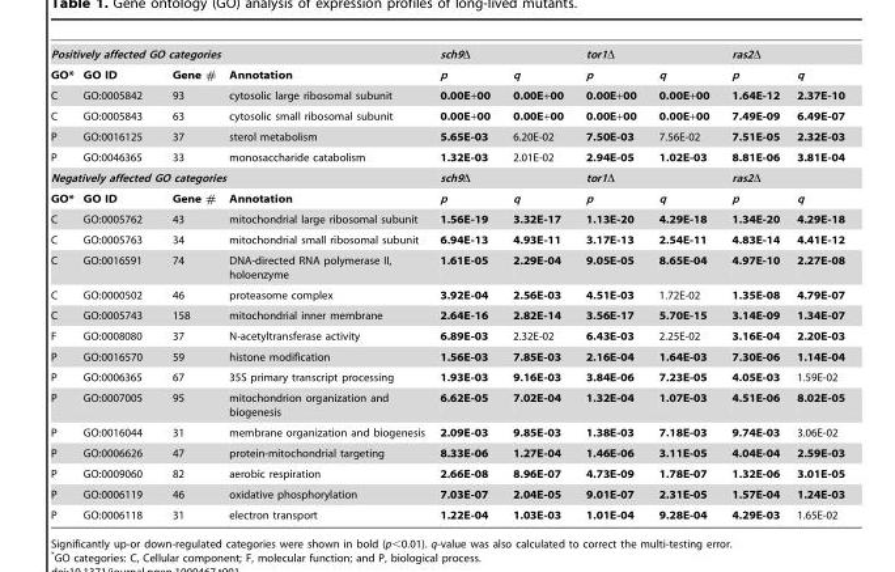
<table><tbody><tr><td colspan="4">Positively affected GO categories</td><td colspan="2">sch9Δ</td><td colspan="2">tor1Δ</td><td colspan="2">ras2Δ</td></tr><tr><td>GO*</td><td>GO ID</td><td>Gene #</td><td>Annotation</td><td>p</td><td>q</td><td>p</td><td>q</td><td>p</td><td>q</td></tr><tr><td>C</td><td>GO:0005842</td><td>93</td><td>cytosolic large ribosomal subunit</td><td>0.00E+00</td><td>0.00E+00</td><td>0.00E+00</td><td>0.00E+00</td><td>1.64E-12</td><td>2.37E-10</td></tr><tr><td>C</td><td>GO:0005843</td><td>63</td><td>cytosolic small ribosomal subunit</td><td>0.00E+00</td><td>0.00E+00</td><td>0.00E+00</td><td>0.00E+00</td><td>7.49E-09</td><td>6.49E-07</td></tr><tr><td>P</td><td>GO:0016125</td><td>37</td><td>sterol metabolism</td><td>5.65E-03</td><td>6.20E-02</td><td>7.50E-03</td><td>7.56E-02</td><td>7.51E-05</td><td>2.32E-03</td></tr><tr><td>P</td><td>GO:0046365</td><td>33</td><td>monosaccharide catabolism</td><td>1.32E-03</td><td>2.01E-02</td><td>2.94E-05</td><td>1.02E-03</td><td>8.81E-06</td><td>3.81E-04</td></tr><tr><td colspan="4">Negatively affected GO categories</td><td colspan="2">sch9Δ</td><td colspan="2">tor1Δ</td><td colspan="2">ras2Δ</td></tr><tr><td>GO*</td><td>GO ID</td><td>Gene #</td><td>Annotation</td><td>p</td><td>q</td><td>p</td><td>q</td><td>p</td><td>q</td></tr><tr><td>C</td><td>GO:0005762</td><td>43</td><td>mitochondrial large ribosomal subunit</td><td>1.56E-19</td><td>3.32E-17</td><td>1.13E-20</td><td>4.29E-18</td><td>1.34E-20</td><td>4.29E-18</td></tr><tr><td>C</td><td>GO:0005763</td><td>34</td><td>mitochondrial small ribosomal subunit</td><td>6.94E-13</td><td>4.93E-11</td><td>3.17E-13</td><td>2.54E-11</td><td>4.83E-14</td><td>4.41E-12</td></tr><tr><td>C</td><td>GO:0016591</td><td>74</td><td>DNA-directed RNA polymerase II, holoenzyme</td><td>1.61E-05</td><td>2.29E-04</td><td>9.05E-05</td><td>8.65E-04</td><td>4.97E-10</td><td>2.27E-08</td></tr><tr><td>C</td><td>GO:0000502</td><td>46</td><td>proteasome complex</td><td>3.92E-04</td><td>2.56E-03</td><td>4.51E-03</td><td>1.72E-02</td><td>1.35E-08</td><td>4.79E-07</td></tr><tr><td>C</td><td>GO:0005743</td><td>158</td><td>mitochondrial inner membrane</td><td>2.64E-16</td><td>2.82E-14</td><td>3.56E-17</td><td>5.70E-15</td><td>3.14E-09</td><td>1.34E-07</td></tr><tr><td>F</td><td>GO:0008080</td><td>37</td><td>N-acetyltransferase activity</td><td>6.89E-03</td><td>2.32E-02</td><td>6.43E-03</td><td>2.25E-02</td><td>3.16E-04</td><td>2.20E-03</td></tr><tr><td>P</td><td>GO:0016570</td><td>59</td><td>histone modification</td><td>1.56E-03</td><td>7.85E-03</td><td>2.16E-04</td><td>1.64E-03</td><td>7.30E-06</td><td>1.14E-04</td></tr><tr><td>P</td><td>GO:0006365</td><td>67</td><td>35S primary transcript processing</td><td>1.93E-03</td><td>9.16E-03</td><td>3.84E-06</td><td>7.23E-05</td><td>4.05E-03</td><td>1.59E-02</td></tr><tr><td>P</td><td>GO:0007005</td><td>95</td><td>mitochondrion organization and biogenesis</td><td>6.62E-05</td><td>7.02E-04</td><td>1.32E-04</td><td>1.07E-03</td><td>4.51E-06</td><td>8.02E-05</td></tr><tr><td>P</td><td>GO:0016044</td><td>31</td><td>membrane organization and biogenesis</td><td>2.09E-03</td><td>9.85E-03</td><td>1.38E-03</td><td>7.18E-03</td><td>9.74E-03</td><td>3.06E-02</td></tr><tr><td>P</td><td>GO:0006626</td><td>47</td><td>protein-mitochondrial targeting</td><td>8.33E-06</td><td>1.27E-04</td><td>1.46E-06</td><td>3.11E-05</td><td>4.04E-04</td><td>2.59E-03</td></tr><tr><td>P</td><td>GO:0009060</td><td>82</td><td>aerobic respiration</td><td>2.66E-08</td><td>8.96E-07</td><td>4.73E-09</td><td>1.78E-07</td><td>1.32E-06</td><td>3.01E-05</td></tr><tr><td>P</td><td>GO:0006119</td><td>46</td><td>oxidative phosphorylation</td><td>7.03E-07</td><td>2.04E-05</td><td>9.01E-07</td><td>2.31E-05</td><td>1.57E-04</td><td>1.24E-03</td></tr><tr><td>P</td><td>GO:0006118</td><td>31</td><td>electron transport</td><td>1.22E-04</td><td>1.03E-03</td><td>1.01E-04</td><td>9.28E-04</td><td>4.29E-03</td><td>1.65E-02</td></tr></tbody></table>